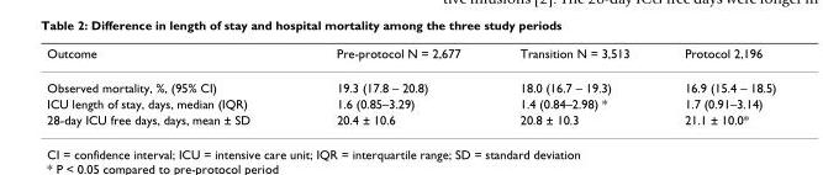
<table><thead><tr><td>Outcome</td><td>Pre-protocol N = 2,677</td><td>Transition N = 3,513</td><td>Protocol 2,196</td></tr></thead><tbody><tr><td>Observed mortality, %, (95% CI)</td><td>19.3 (17.8 – 20.8)</td><td>18.0 (16.7 – 19.3)</td><td>16.9 (15.4 – 18.5)</td></tr><tr><td>ICU length of stay, days, median (IQR)</td><td>1.6 (0.85–3.29)</td><td>1.4 (0.84–2.98) *</td><td>1.7 (0.91–3.14)</td></tr><tr><td>28-day ICU free days, days, mean ± SD</td><td>20.4 ± 10.6</td><td>20.8 ± 10.3</td><td>21.1 ± 10.0*</td></tr></tbody></table>